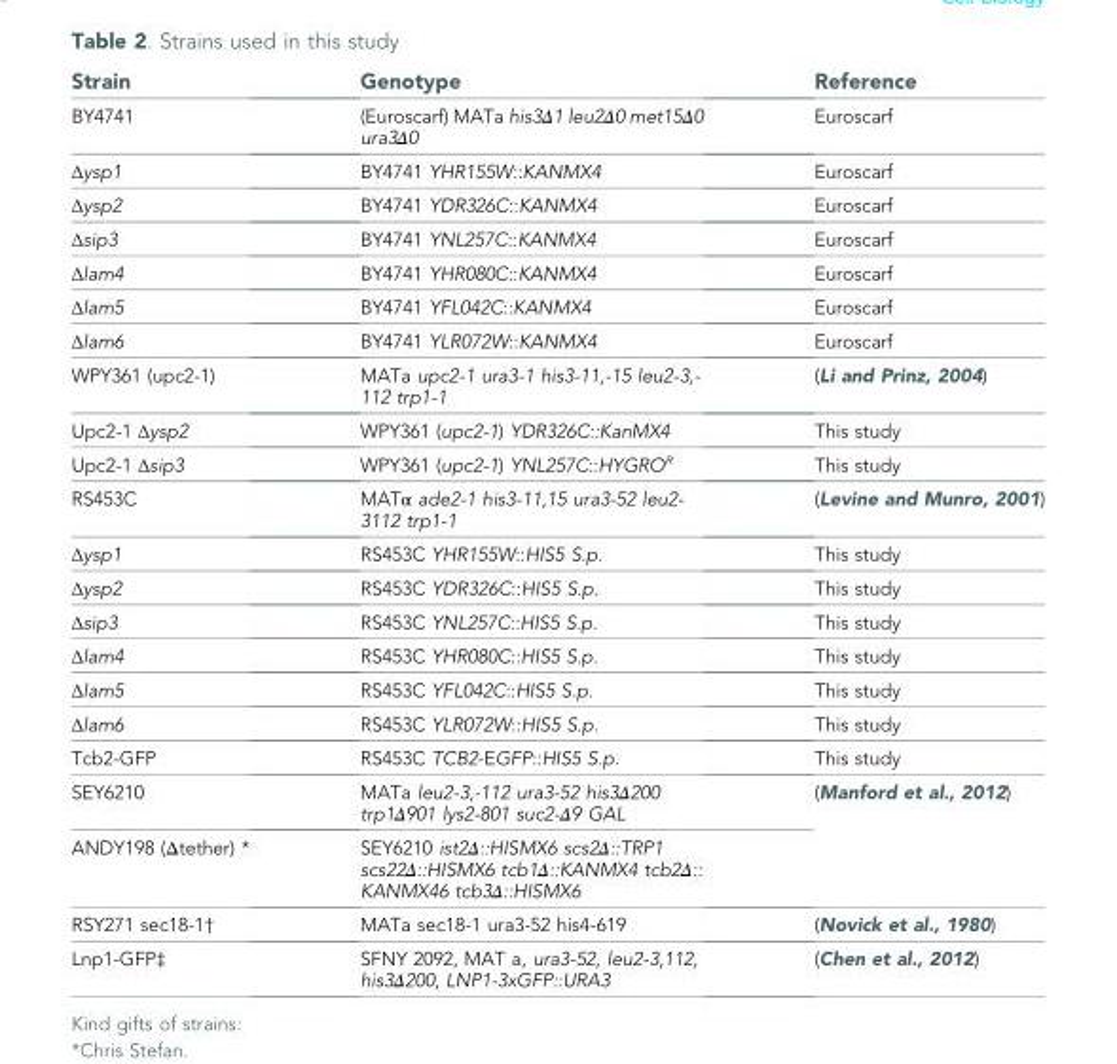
<table><thead><tr><td>Strain</td><td>Genotype</td><td>Reference</td></tr></thead><tbody><tr><td>BY4741</td><td>(Euroscarf) MATa his3Δ1 leu2Δ0 met15Δ0 ura3Δ0</td><td>Euroscarf</td></tr><tr><td>Δysp1</td><td>BY4741 YHR155W::KANMX4</td><td>Euroscarf</td></tr><tr><td>Δysp2</td><td>BY4741 YDR326C::KANMX4</td><td>Euroscarf</td></tr><tr><td>Δsip3</td><td>BY4741 YNL257C::KANMX4</td><td>Euroscarf</td></tr><tr><td>Δlam4</td><td>BY4741 YHR080C::KANMX4</td><td>Euroscarf</td></tr><tr><td>Δlam5</td><td>BY4741 YFL042C::KANMX4</td><td>Euroscarf</td></tr><tr><td>Δlam6</td><td>BY4741 YLR072W::KANMX4</td><td>Euroscarf</td></tr><tr><td>WPY361 (upc2-1)</td><td>MATa upc2-1 ura3-1 his3-11,-15 leu2-3,- 112 trp1-1</td><td>(Li and Prinz, 2004)</td></tr><tr><td>Upc2-1 Δysp2</td><td>WPY361 (upc2-1) YDR326C::KanMX4</td><td>This study</td></tr><tr><td>Upc2-1 Δsip3</td><td>WPY361 (upc2-1) YNL257C::HYGRO<sup>R</sup></td><td>This study</td></tr><tr><td>RS453C</td><td>MATα ade2-1 his3-11,15 ura3-52 leu2- 3112 trp1-1</td><td>(Levine and Munro, 2001)</td></tr><tr><td>Δysp1</td><td>RS453C YHR155W::HIS5 S.p.</td><td>This study</td></tr><tr><td>Δysp2</td><td>RS453C YDR326C::HIS5 S.p.</td><td>This study</td></tr><tr><td>Δsip3</td><td>RS453C YNL257C::HIS5 S.p.</td><td>This study</td></tr><tr><td>Δlam4</td><td>RS453C YHR080C::HIS5 S.p.</td><td>This study</td></tr><tr><td>Δlam5</td><td>RS453C YFL042C::HIS5 S.p.</td><td>This study</td></tr><tr><td>Δlam6</td><td>RS453C YLR072W::HIS5 S.p.</td><td>This study</td></tr><tr><td>Tcb2-GFP</td><td>RS453C TCB2-EGFP::HIS5 S.p.</td><td>This study</td></tr><tr><td>SEY6210</td><td>MATa leu2-3,-112 ura3-52 his3Δ200 trp1Δ901 lys2-801 suc2-Δ9 GAL</td><td rowspan="2">(Manford et al., 2012)</td></tr><tr><td>ANDY198 (Δtether) *</td><td>SEY6210 ist2Δ::HISMX6 scs2Δ::TRP1 scs22Δ::HISMX6 tcb1Δ::KANMX4 tcb2Δ:: KANMX46 tcb3Δ::HISMX6</td></tr><tr><td>RSY271 sec18-1†</td><td>MATa sec18-1 ura3-52 his4-619</td><td>(Novick et al., 1980)</td></tr><tr><td>Lnp1-GFP‡</td><td>SFNY 2092, MAT a, ura3-52, leu2-3,112, his3Δ200, LNP1-3xGFP::URA3</td><td>(Chen et al., 2012)</td></tr></tbody></table>